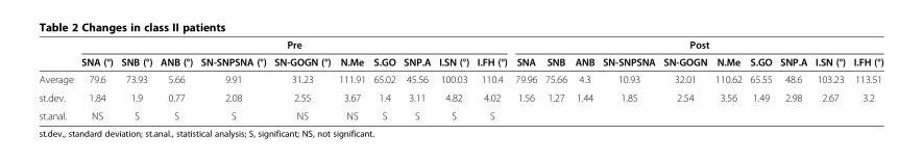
<table><thead><tr><td rowspan="2"></td><td colspan="10">Pre</td><td colspan="10">Post</td></tr><tr><td>SNA (°)</td><td>SNB (°)</td><td>ANB (°)</td><td>SN-SNPSNA (°)</td><td>SN-GOGN (°)</td><td>N.Me</td><td>S.GO</td><td>SNP.A</td><td>I.SN (°)</td><td>I.FH (°)</td><td>SNA</td><td>SNB</td><td>ANB</td><td>SN-SNPSNA</td><td>SN-GOGN</td><td>N.Me</td><td>S.GO</td><td>SNP.A</td><td>I.SN (°)</td><td>I.FH (°)</td></tr></thead><tbody><tr><td>Average</td><td>79.6</td><td>73.93</td><td>5.66</td><td>9.91</td><td>31.23</td><td>111.91</td><td>65.02</td><td>45.56</td><td>100.03</td><td>110.4</td><td>79.96</td><td>75.66</td><td>4.3</td><td>10.93</td><td>32.01</td><td>110.62</td><td>65.55</td><td>48.6</td><td>103.23</td><td>113.51</td></tr><tr><td>st.dev.</td><td>1.84</td><td>1.9</td><td>0.77</td><td>2.08</td><td>2.55</td><td>3.67</td><td>1.4</td><td>3.11</td><td>4.82</td><td>4.02</td><td>1.56</td><td>1.27</td><td>1.44</td><td>1.85</td><td>2.54</td><td>3.56</td><td>1.49</td><td>2.98</td><td>2.67</td><td>3.2</td></tr><tr><td>st.anal.</td><td>NS</td><td>S</td><td>S</td><td>S</td><td>NS</td><td>NS</td><td>S</td><td>S</td><td>S</td><td>S</td><td></td><td></td><td></td><td></td><td></td><td></td><td></td><td></td><td></td><td></td></tr></tbody></table>